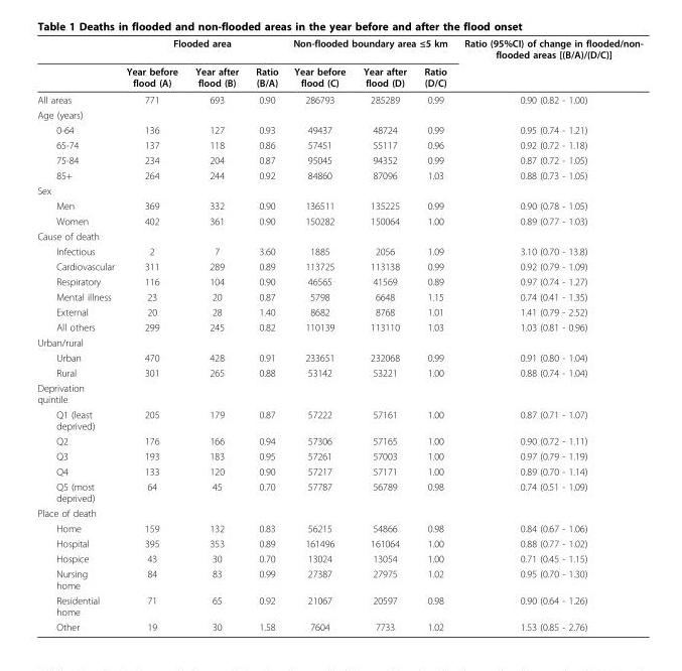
<table><thead><tr><td rowspan="2"></td><td colspan="3">Flooded area</td><td colspan="3">Non-flooded boundary area ≤5 km</td><td rowspan="2">Ratio (95%CI) of change in flooded/non- flooded areas [(B/A)/(D/C)]</td></tr><tr><td>Year before flood (A)</td><td>Year after flood (B)</td><td>Ratio (B/A)</td><td>Year before flood (C)</td><td>Year after flood (D)</td><td>Ratio (D/C)</td></tr></thead><tbody><tr><td>All areas</td><td>771</td><td>693</td><td>0.90</td><td>286793</td><td>285289</td><td>0.99</td><td>0.90 (0.82 - 1.00)</td></tr><tr><td colspan="8">Age (years)</td></tr><tr><td>0-64</td><td>136</td><td>127</td><td>0.93</td><td>49437</td><td>48724</td><td>0.99</td><td>0.95 (0.74 - 1.21)</td></tr><tr><td>65-74</td><td>137</td><td>118</td><td>0.86</td><td>57451</td><td>55117</td><td>0.96</td><td>0.92 (0.72 - 1.18)</td></tr><tr><td>75-84</td><td>234</td><td>204</td><td>0.87</td><td>95045</td><td>94352</td><td>0.99</td><td>0.87 (0.72 - 1.05)</td></tr><tr><td>85+</td><td>264</td><td>244</td><td>0.92</td><td>84860</td><td>87096</td><td>1.03</td><td>0.88 (0.73 - 1.05)</td></tr><tr><td colspan="8">Sex</td></tr><tr><td>Men</td><td>369</td><td>332</td><td>0.90</td><td>136511</td><td>135225</td><td>0.99</td><td>0.90 (0.78 - 1.05)</td></tr><tr><td>Women</td><td>402</td><td>361</td><td>0.90</td><td>150282</td><td>150064</td><td>1.00</td><td>0.89 (0.77 - 1.03)</td></tr><tr><td colspan="8">Cause of death</td></tr><tr><td>Infectious</td><td>2</td><td>7</td><td>3.60</td><td>1885</td><td>2056</td><td>1.09</td><td>3.10 (0.70 - 13.8)</td></tr><tr><td>Cardiovascular</td><td>311</td><td>289</td><td>0.89</td><td>113725</td><td>113138</td><td>0.99</td><td>0.92 (0.79 - 1.09)</td></tr><tr><td>Respiratory</td><td>116</td><td>104</td><td>0.90</td><td>46565</td><td>41569</td><td>0.89</td><td>0.97 (0.74 - 1.27)</td></tr><tr><td>Mental illness</td><td>23</td><td>20</td><td>0.87</td><td>5798</td><td>6648</td><td>1.15</td><td>0.74 (0.41 - 1.35)</td></tr><tr><td>External</td><td>20</td><td>28</td><td>1.40</td><td>8682</td><td>8768</td><td>1.01</td><td>1.41 (0.79 - 2.52)</td></tr><tr><td>All others</td><td>299</td><td>245</td><td>0.82</td><td>110139</td><td>113110</td><td>1.03</td><td>1.03 (0.81 - 0.96)</td></tr><tr><td colspan="8">Urban/rural</td></tr><tr><td>Urban</td><td>470</td><td>428</td><td>0.91</td><td>233651</td><td>232068</td><td>0.99</td><td>0.91 (0.80 - 1.04)</td></tr><tr><td>Rural</td><td>301</td><td>265</td><td>0.88</td><td>53142</td><td>53221</td><td>1.00</td><td>0.88 (0.74 - 1.04)</td></tr><tr><td colspan="8">Deprivation quintile</td></tr><tr><td>Q1 (least deprived)</td><td>205</td><td>179</td><td>0.87</td><td>57222</td><td>57161</td><td>1.00</td><td>0.87 (0.71 - 1.07)</td></tr><tr><td>Q2</td><td>176</td><td>166</td><td>0.94</td><td>57306</td><td>57165</td><td>1.00</td><td>0.90 (0.72 - 1.11)</td></tr><tr><td>Q3</td><td>193</td><td>183</td><td>0.95</td><td>57261</td><td>57003</td><td>1.00</td><td>0.97 (0.79 - 1.19)</td></tr><tr><td>Q4</td><td>133</td><td>120</td><td>0.90</td><td>57217</td><td>57171</td><td>1.00</td><td>0.89 (0.70 - 1.14)</td></tr><tr><td>Q5 (most deprived)</td><td>64</td><td>45</td><td>0.70</td><td>57787</td><td>56789</td><td>0.98</td><td>0.74 (0.51 - 1.09)</td></tr><tr><td colspan="8">Place of death</td></tr><tr><td>Home</td><td>159</td><td>132</td><td>0.83</td><td>56215</td><td>54866</td><td>0.98</td><td>0.84 (0.67 - 1.06)</td></tr><tr><td>Hospital</td><td>395</td><td>353</td><td>0.89</td><td>161496</td><td>161064</td><td>1.00</td><td>0.88 (0.77 - 1.02)</td></tr><tr><td>Hospice</td><td>43</td><td>30</td><td>0.70</td><td>13024</td><td>13054</td><td>1.00</td><td>0.71 (0.45 - 1.15)</td></tr><tr><td>Nursing home</td><td>84</td><td>83</td><td>0.99</td><td>27387</td><td>27975</td><td>1.02</td><td>0.95 (0.70 - 1.30)</td></tr><tr><td>Residential home</td><td>71</td><td>65</td><td>0.92</td><td>21067</td><td>20597</td><td>0.98</td><td>0.90 (0.64 - 1.26)</td></tr><tr><td>Other</td><td>19</td><td>30</td><td>1.58</td><td>7604</td><td>7733</td><td>1.02</td><td>1.53 (0.85 - 2.76)</td></tr></tbody></table>